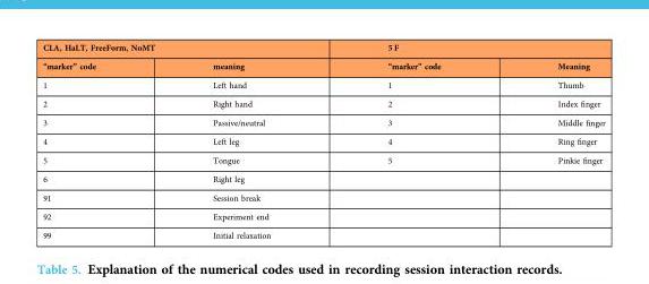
<table><thead><tr><td colspan="2">CLA, HaLT, FreeForm, NoMT</td><td colspan="2">5 F</td></tr><tr><td>“marker” code</td><td>meaning</td><td>“marker” code</td><td>Meaning</td></tr></thead><tbody><tr><td>1</td><td>Left hand</td><td>1</td><td>Thumb</td></tr><tr><td>2</td><td>Right hand</td><td>2</td><td>Index finger</td></tr><tr><td>3</td><td>Passive/neutral</td><td>3</td><td>Middle finger</td></tr><tr><td>4</td><td>Left leg</td><td>4</td><td>Ring finger</td></tr><tr><td>5</td><td>Tongue</td><td>5</td><td>Pinkie finger</td></tr><tr><td>6</td><td>Right leg</td><td></td><td></td></tr><tr><td>91</td><td>Session break</td><td></td><td></td></tr><tr><td>92</td><td>Experiment end</td><td></td><td></td></tr><tr><td>99</td><td>Initial relaxation</td><td></td><td></td></tr></tbody></table>